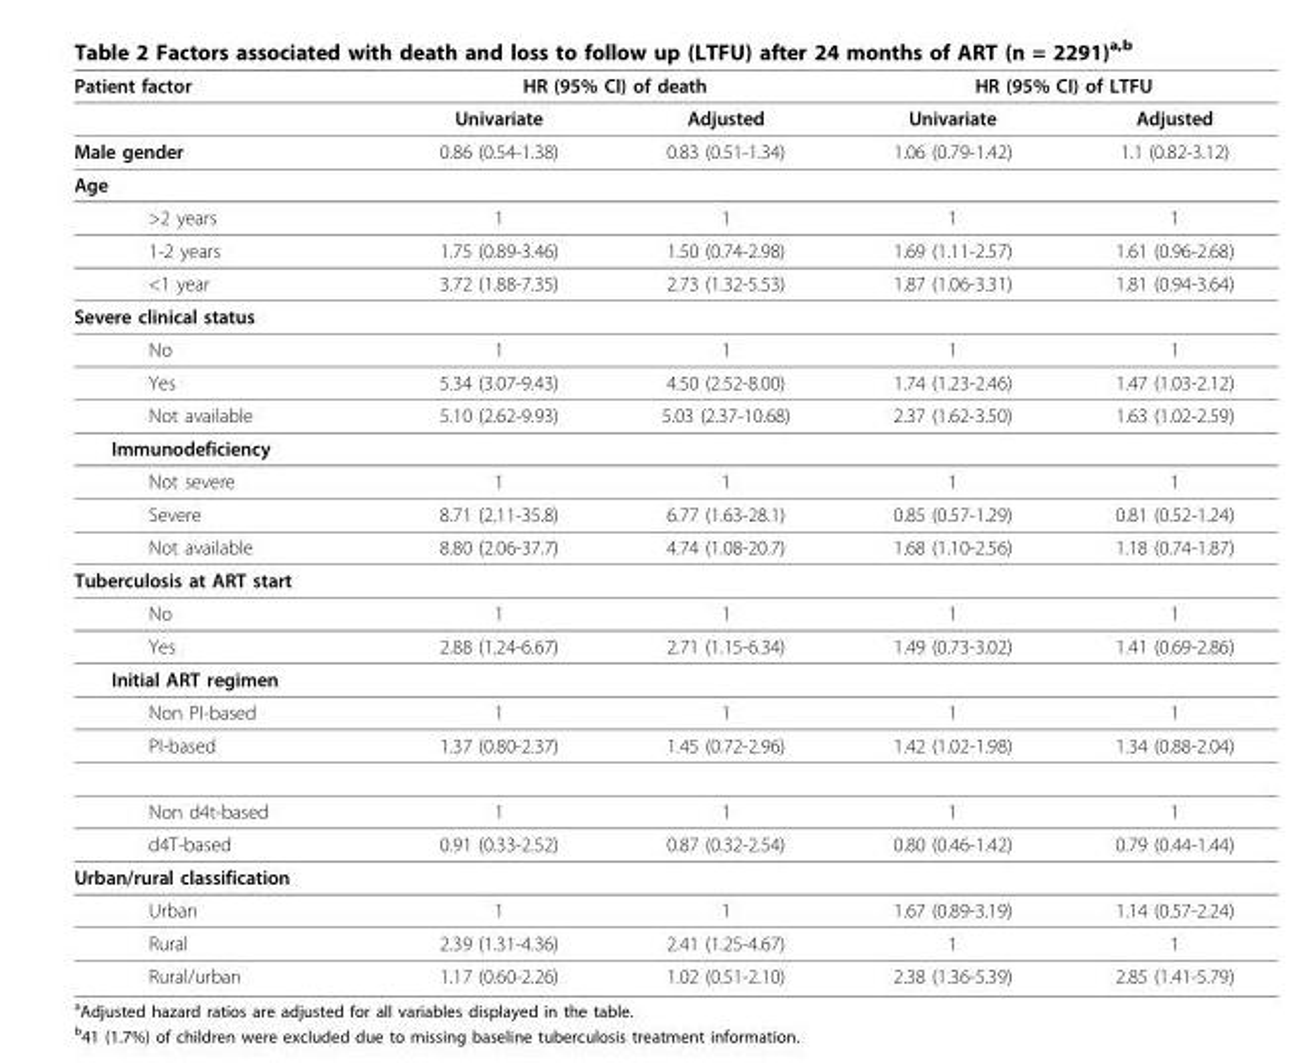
<table><thead><tr><td rowspan="2">Patient factor</td><td colspan="2">HR (95% CI) of death</td><td colspan="2">HR (95% CI) of LTFU</td></tr><tr><td>Univariate</td><td>Adjusted</td><td>Univariate</td><td>Adjusted</td></tr></thead><tbody><tr><td>Male gender</td><td>0.86 (0.54-1.38)</td><td>0.83 (0.51-1.34)</td><td>1.06 (0.79-1.42)</td><td>1.1 (0.82-3.12)</td></tr><tr><td colspan="5">Age</td></tr><tr><td>&gt;2 years</td><td>1</td><td>1</td><td>1</td><td>1</td></tr><tr><td>1-2 years</td><td>1.75 (0.89-3.46)</td><td>1.50 (0.74-2.98)</td><td>1.69 (1.11-2.57)</td><td>1.61 (0.96-2.68)</td></tr><tr><td>&lt;1 year</td><td>3.72 (1.88-7.35)</td><td>2.73 (1.32-5.53)</td><td>1.87 (1.06-3.31)</td><td>1.81 (0.94-3.64)</td></tr><tr><td colspan="5">Severe clinical status</td></tr><tr><td>No</td><td>1</td><td>1</td><td>1</td><td>1</td></tr><tr><td>Yes</td><td>5.34 (3.07-9.43)</td><td>4.50 (2.52-8.00)</td><td>1.74 (1.23-2.46)</td><td>1.47 (1.03-2.12)</td></tr><tr><td>Not available</td><td>5.10 (2.62-9.93)</td><td>5.03 (2.37-10.68)</td><td>2.37 (1.62-3.50)</td><td>1.63 (1.02-2.59)</td></tr><tr><td colspan="5">Immunodeficiency</td></tr><tr><td>Not severe</td><td>1</td><td>1</td><td>1</td><td>1</td></tr><tr><td>Severe</td><td>8.71 (2.11-35.8)</td><td>6.77 (1.63-28.1)</td><td>0.85 (0.57-1.29)</td><td>0.81 (0.52-1.24)</td></tr><tr><td>Not available</td><td>8.80 (2.06-37.7)</td><td>4.74 (1.08-20.7)</td><td>1.68 (1.10-2.56)</td><td>1.18 (0.74-1.87)</td></tr><tr><td colspan="5">Tuberculosis at ART start</td></tr><tr><td>No</td><td>1</td><td>1</td><td>1</td><td>1</td></tr><tr><td>Yes</td><td>2.88 (1.24-6.67)</td><td>2.71 (1.15-6.34)</td><td>1.49 (0.73-3.02)</td><td>1.41 (0.69-2.86)</td></tr><tr><td colspan="5">Initial ART regimen</td></tr><tr><td>Non PI-based</td><td>1</td><td>1</td><td>1</td><td>1</td></tr><tr><td>PI-based</td><td>1.37 (0.80-2.37)</td><td>1.45 (0.72-2.96)</td><td>1.42 (1.02-1.98)</td><td>1.34 (0.88-2.04)</td></tr><tr><td>Non d4t-based</td><td>1</td><td>1</td><td>1</td><td>1</td></tr><tr><td>d4T-based</td><td>0.91 (0.33-2.52)</td><td>0.87 (0.32-2.54)</td><td>0.80 (0.46-1.42)</td><td>0.79 (0.44-1.44)</td></tr><tr><td colspan="5">Urban/rural classification</td></tr><tr><td>Urban</td><td>1</td><td>1</td><td>1.67 (0.89-3.19)</td><td>1.14 (0.57-2.24)</td></tr><tr><td>Rural</td><td>2.39 (1.31-4.36)</td><td>2.41 (1.25-4.67)</td><td>1</td><td>1</td></tr><tr><td>Rural/urban</td><td>1.17 (0.60-2.26)</td><td>1.02 (0.51-2.10)</td><td>2.38 (1.36-5.39)</td><td>2.85 (1.41-5.79)</td></tr></tbody></table>